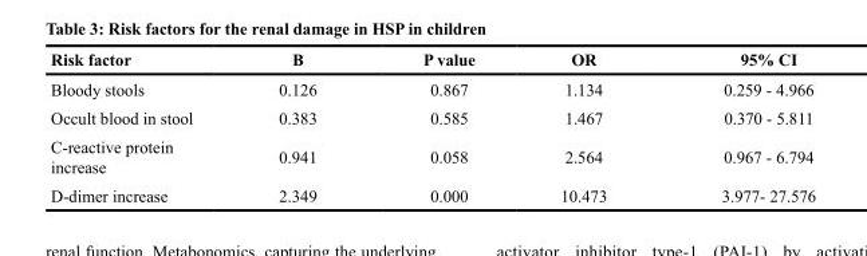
<table><thead><tr><td>Risk factor</td><td>B</td><td>P value</td><td>OR</td><td>95% CI</td></tr></thead><tbody><tr><td>Bloody stools</td><td>0.126</td><td>0.867</td><td>1.134</td><td>0.259 - 4.966</td></tr><tr><td>Occult blood in stool</td><td>0.383</td><td>0.585</td><td>1.467</td><td>0.370 - 5.811</td></tr><tr><td>C-reactive protein increase</td><td>0.941</td><td>0.058</td><td>2.564</td><td>0.967 - 6.794</td></tr><tr><td>D-dimer increase</td><td>2.349</td><td>0.000</td><td>10.473</td><td>3.977- 27.576</td></tr></tbody></table>